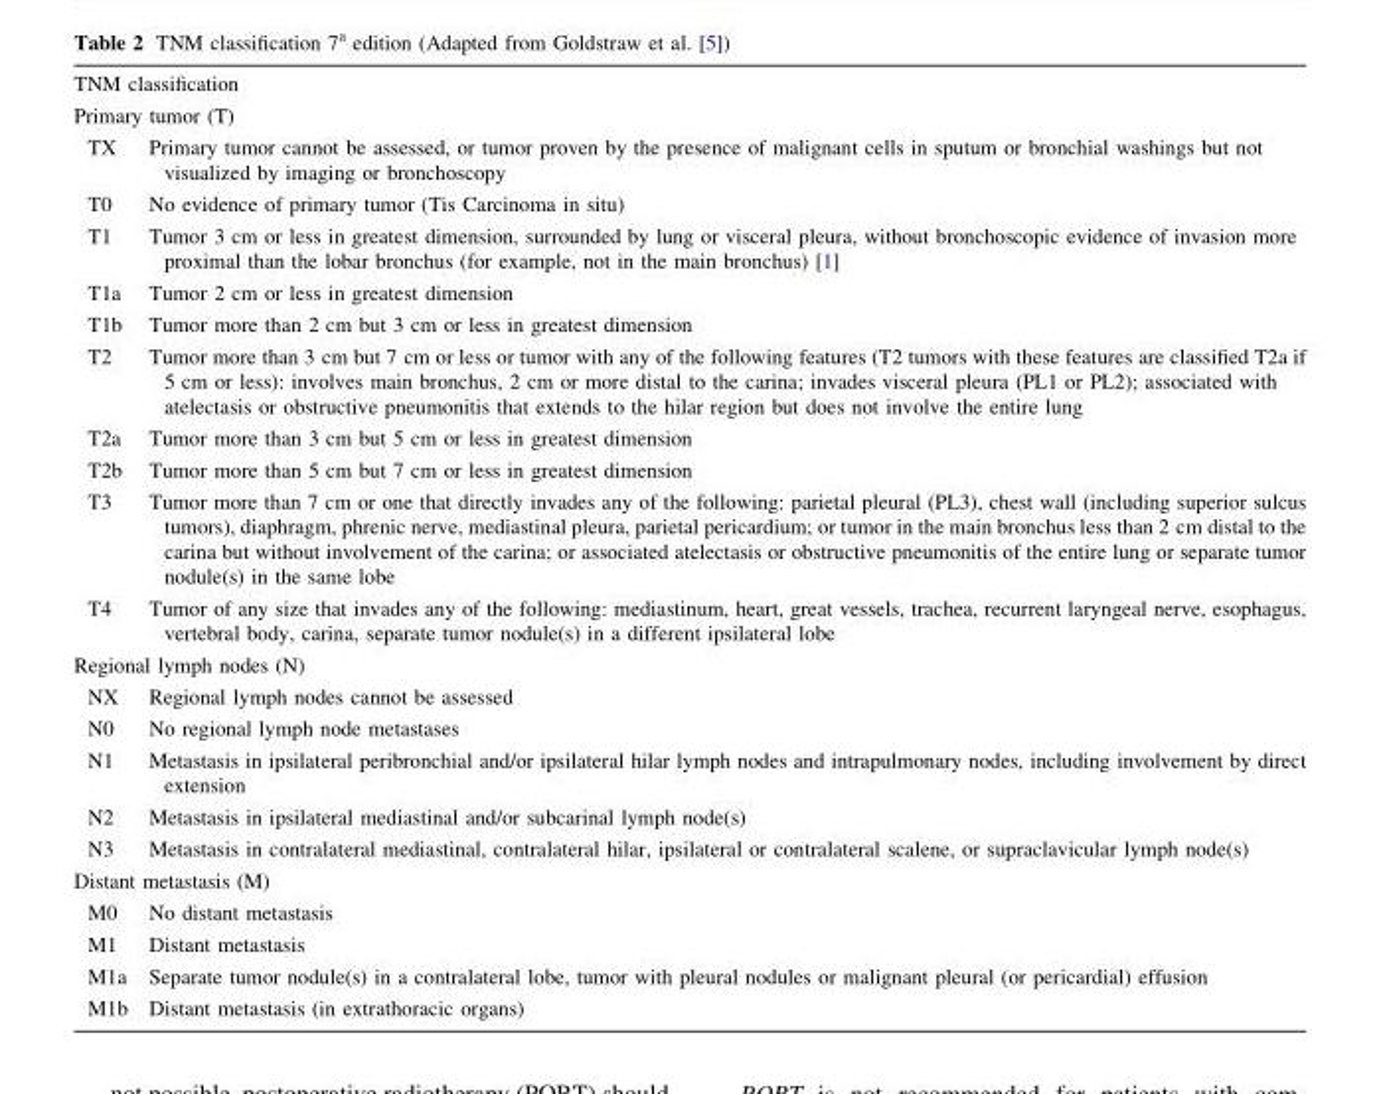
<table><tbody><tr><td colspan="2">TNM classification</td></tr><tr><td colspan="2">Primary tumor (T)</td></tr><tr><td>TX</td><td>Primary tumor cannot be assessed, or tumor proven by the presence of malignant cells in sputum or bronchial washings but not visualized by imaging or bronchoscopy</td></tr><tr><td>T0</td><td>No evidence of primary tumor (Tis Carcinoma in situ)</td></tr><tr><td>T1</td><td>Tumor 3 cm or less in greatest dimension, surrounded by lung or visceral pleura, without bronchoscopic evidence of invasion more proximal than the lobar bronchus (for example, not in the main bronchus) [1]</td></tr><tr><td>T1a</td><td>Tumor 2 cm or less in greatest dimension</td></tr><tr><td>T1b</td><td>Tumor more than 2 cm but 3 cm or less in greatest dimension</td></tr><tr><td>T2</td><td>Tumor more than 3 cm but 7 cm or less or tumor with any of the following features (T2 tumors with these features are classified T2a if 5 cm or less): involves main bronchus, 2 cm or more distal to the carina; invades visceral pleura (PL1 or PL2); associated with atelectasis or obstructive pneumonitis that extends to the hilar region but does not involve the entire lung</td></tr><tr><td>T2a</td><td>Tumor more than 3 cm but 5 cm or less in greatest dimension</td></tr><tr><td>T2b</td><td>Tumor more than 5 cm but 7 cm or less in greatest dimension</td></tr><tr><td>T3</td><td>Tumor more than 7 cm or one that directly invades any of the following: parietal pleural (PL3), chest wall (including superior sulcus tumors), diaphragm, phrenic nerve, mediastinal pleura, parietal pericardium; or tumor in the main bronchus less than 2 cm distal to the carina but without involvement of the carina; or associated atelectasis or obstructive pneumonitis of the entire lung or separate tumor nodule(s) in the same lobe</td></tr><tr><td>T4</td><td>Tumor of any size that invades any of the following: mediastinum, heart, great vessels, trachea, recurrent laryngeal nerve, esophagus, vertebral body, carina, separate tumor nodule(s) in a different ipsilateral lobe</td></tr><tr><td colspan="2">Regional lymph nodes (N)</td></tr><tr><td>NX</td><td>Regional lymph nodes cannot be assessed</td></tr><tr><td>N0</td><td>No regional lymph node metastases</td></tr><tr><td>N1</td><td>Metastasis in ipsilateral peribronchial and/or ipsilateral hilar lymph nodes and intrapulmonary nodes, including involvement by direct extension</td></tr><tr><td>N2</td><td>Metastasis in ipsilateral mediastinal and/or subcarinal lymph node(s)</td></tr><tr><td>N3</td><td>Metastasis in contralateral mediastinal, contralateral hilar, ipsilateral or contralateral scalene, or supraclavicular lymph node(s)</td></tr><tr><td colspan="2">Distant metastasis (M)</td></tr><tr><td>M0</td><td>No distant metastasis</td></tr><tr><td>M1</td><td>Distant metastasis</td></tr><tr><td>M1a</td><td>Separate tumor nodule(s) in a contralateral lobe, tumor with pleural nodules or malignant pleural (or pericardial) effusion</td></tr><tr><td>M1b</td><td>Distant metastasis (in extrathoracic organs)</td></tr></tbody></table>